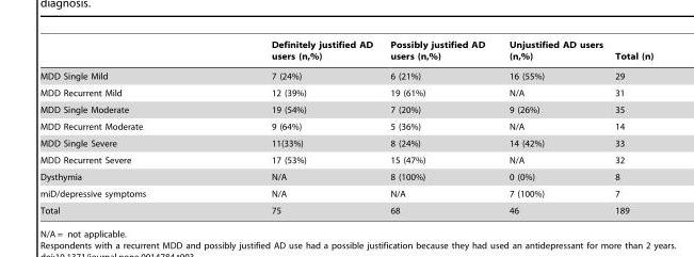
<table><thead><tr><td></td><td>Definitely justified AD users (n,%)</td><td>Possibly justified AD users (n,%)</td><td>Unjustified AD users (n,%)</td><td>Total (n)</td></tr></thead><tbody><tr><td>MDD Single Mild</td><td>7 (24%)</td><td>6 (21%)</td><td>16 (55%)</td><td>29</td></tr><tr><td>MDD Recurrent Mild</td><td>12 (39%)</td><td>19 (61%)</td><td>N/A</td><td>31</td></tr><tr><td>MDD Single Moderate</td><td>19 (54%)</td><td>7 (20%)</td><td>9 (26%)</td><td>35</td></tr><tr><td>MDD Recurrent Moderate</td><td>9 (64%)</td><td>5 (36%)</td><td>N/A</td><td>14</td></tr><tr><td>MDD Single Severe</td><td>11(33%)</td><td>8 (24%)</td><td>14 (42%)</td><td>33</td></tr><tr><td>MDD Recurrent Severe</td><td>17 (53%)</td><td>15 (47%)</td><td>N/A</td><td>32</td></tr><tr><td>Dysthymia</td><td>N/A</td><td>8 (100%)</td><td>0 (0%)</td><td>8</td></tr><tr><td>miD/depressive symptoms</td><td>N/A</td><td>N/A</td><td>7 (100%)</td><td>7</td></tr><tr><td>Total</td><td>75</td><td>68</td><td>46</td><td>189</td></tr></tbody></table>